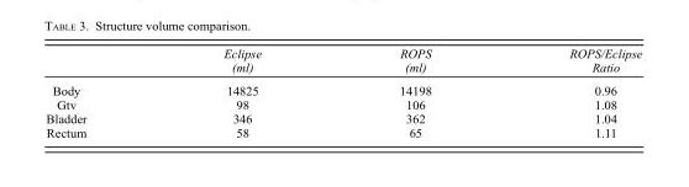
<table><thead><tr><td></td><td>Eclipse (ml)</td><td>ROPS (ml)</td><td>ROPS/Eclipse Ratio</td></tr></thead><tbody><tr><td>Body</td><td>14825</td><td>14198</td><td>0.96</td></tr><tr><td>Gtv</td><td>98</td><td>106</td><td>1.08</td></tr><tr><td>Bladder</td><td>346</td><td>362</td><td>1.04</td></tr><tr><td>Rectum</td><td>58</td><td>65</td><td>1.11</td></tr></tbody></table>